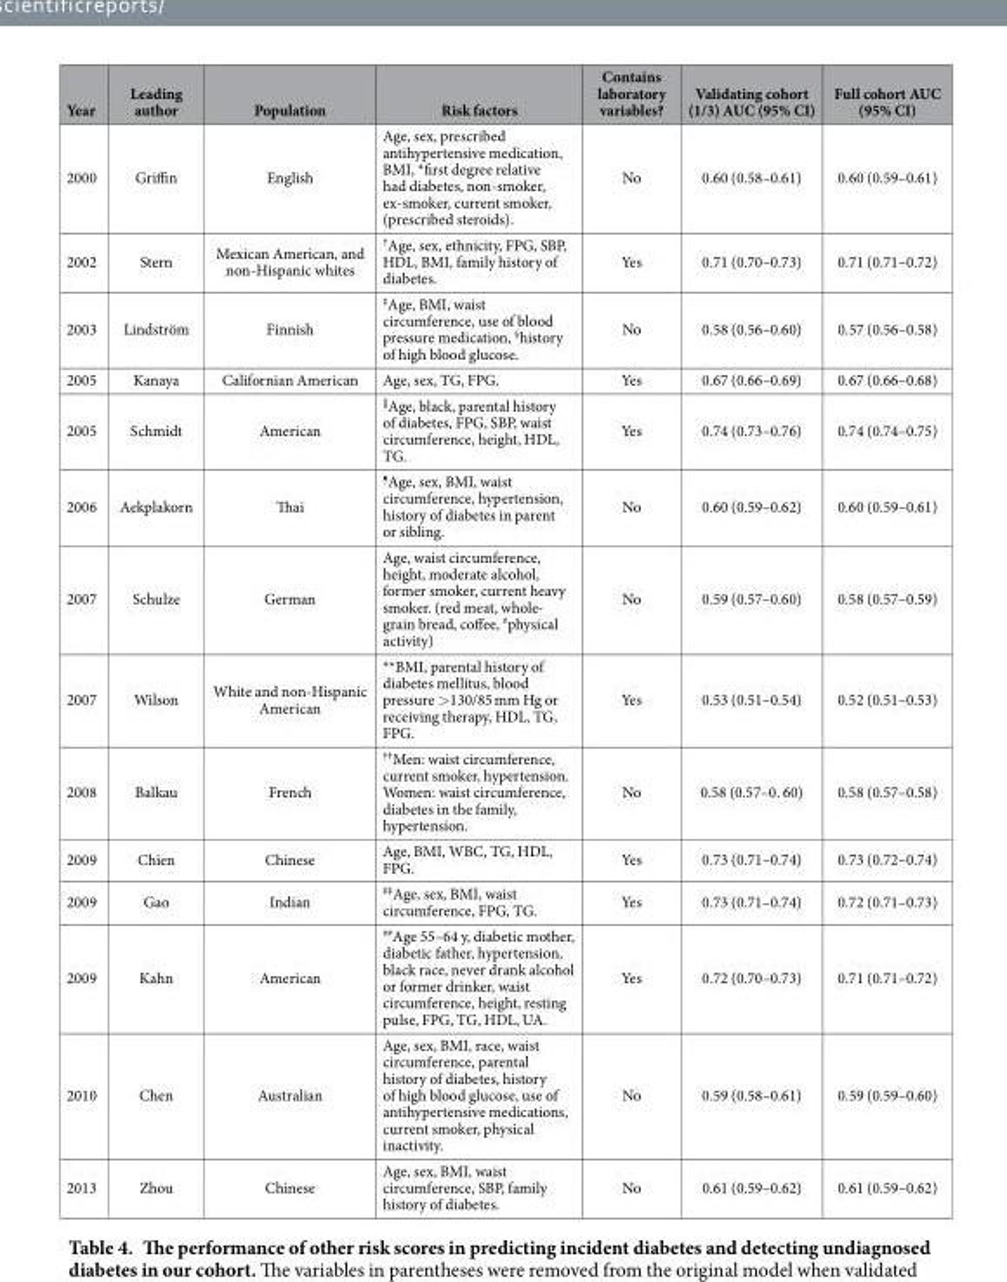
<table><thead><tr><td>Year</td><td>Leading author</td><td>Population</td><td>Risk factors</td><td>Contains laboratory variables?</td><td>Validating cohort (1/3) AUC (95% CI)</td><td>Full cohort AUC (95% CI)</td></tr></thead><tbody><tr><td>2000</td><td>Griffin</td><td>English</td><td>Age, sex, prescribed antihypertensive medication, BMI, *first degree relative had diabetes, non-smoker, ex-smoker, current smoker, (prescribed steroids).</td><td>No</td><td>0.60 (0.58–0.61)</td><td>0.60 (0.59–0.61)</td></tr><tr><td>2002</td><td>Stern</td><td>Mexican American, and non-Hispanic whites</td><td>†Age, sex, ethnicity, FPG, SBP, HDL, BMI, family history of diabetes.</td><td>Yes</td><td>0.71 (0.70–0.73)</td><td>0.71 (0.71–0.72)</td></tr><tr><td>2003</td><td>Lindström</td><td>Finnish</td><td>‡Age, BMI, waist circumference, use of blood pressure medication, §history of high blood glucose.</td><td>No</td><td>0.58 (0.56–0.60)</td><td>0.57 (0.56–0.58)</td></tr><tr><td>2005</td><td>Kanaya</td><td>Californian American</td><td>Age, sex, TG, FPG.</td><td>Yes</td><td>0.67 (0.66–0.69)</td><td>0.67 (0.66–0.68)</td></tr><tr><td>2005</td><td>Schmidt</td><td>American</td><td>||Age, black, parental history of diabetes, FPG, SBP, waist circumference, height, HDL, TG.</td><td>Yes</td><td>0.74 (0.73–0.76)</td><td>0.74 (0.74–0.75)</td></tr><tr><td>2006</td><td>Aekplakorn</td><td>Thai</td><td>¶Age, sex, BMI, waist circumference, hypertension, history of diabetes in parent or sibling.</td><td>No</td><td>0.60 (0.59–0.62)</td><td>0.60 (0.59–0.61)</td></tr><tr><td>2007</td><td>Schulze</td><td>German</td><td>Age, waist circumference, height, moderate alcohol, former smoker, current heavy smoker. (red meat, whole- grain bread, coffee, #physical activity)</td><td>No</td><td>0.59 (0.57–0.60)</td><td>0.58 (0.57–0.59)</td></tr><tr><td>2007</td><td>Wilson</td><td>White and non-Hispanic American</td><td>**BMI, parental history of diabetes mellitus, blood pressure &gt; 130/85 mm Hg or receiving therapy, HDL, TG, FPG.</td><td>Yes</td><td>0.53 (0.51–0.54)</td><td>0.52 (0.51–0.53)</td></tr><tr><td>2008</td><td>Balkau</td><td>French</td><td>††Men: waist circumference, current smoker, hypertension. Women: waist circumference, diabetes in the family, hypertension.</td><td>No</td><td>0.58 (0.57–0. 60)</td><td>0.58 (0.57–0.58)</td></tr><tr><td>2009</td><td>Chien</td><td>Chinese</td><td>Age, BMI, WBC, TG, HDL, FPG.</td><td>Yes</td><td>0.73 (0.71–0.74)</td><td>0.73 (0.72–0.74)</td></tr><tr><td>2009</td><td>Gao</td><td>Indian</td><td>‡‡Age, sex, BMI, waist circumference, FPG, TG.</td><td>Yes</td><td>0.73 (0.71–0.74)</td><td>0.72 (0.71–0.73)</td></tr><tr><td>2009</td><td>Kahn</td><td>American</td><td>##Age 55–64 y, diabetic mother, diabetic father, hypertension, black race, never drank alcohol or former drinker, waist circumference, height, resting pulse, FPG, TG, HDL, UA.</td><td>Yes</td><td>0.72 (0.70–0.73)</td><td>0.71 (0.71–0.72)</td></tr><tr><td>2010</td><td>Chen</td><td>Australian</td><td>Age, sex, BMI, race, waist circumference, parental history of diabetes, history of high blood glucose, use of antihypertensive medications, current smoker, physical inactivity.</td><td>No</td><td>0.59 (0.58–0.61)</td><td>0.59 (0.59–0.60)</td></tr><tr><td>2013</td><td>Zhou</td><td>Chinese</td><td>Age, sex, BMI, waist circumference, SBP, family history of diabetes.</td><td>No</td><td>0.61 (0.59–0.62)</td><td>0.61 (0.59–0.62)</td></tr></tbody></table>